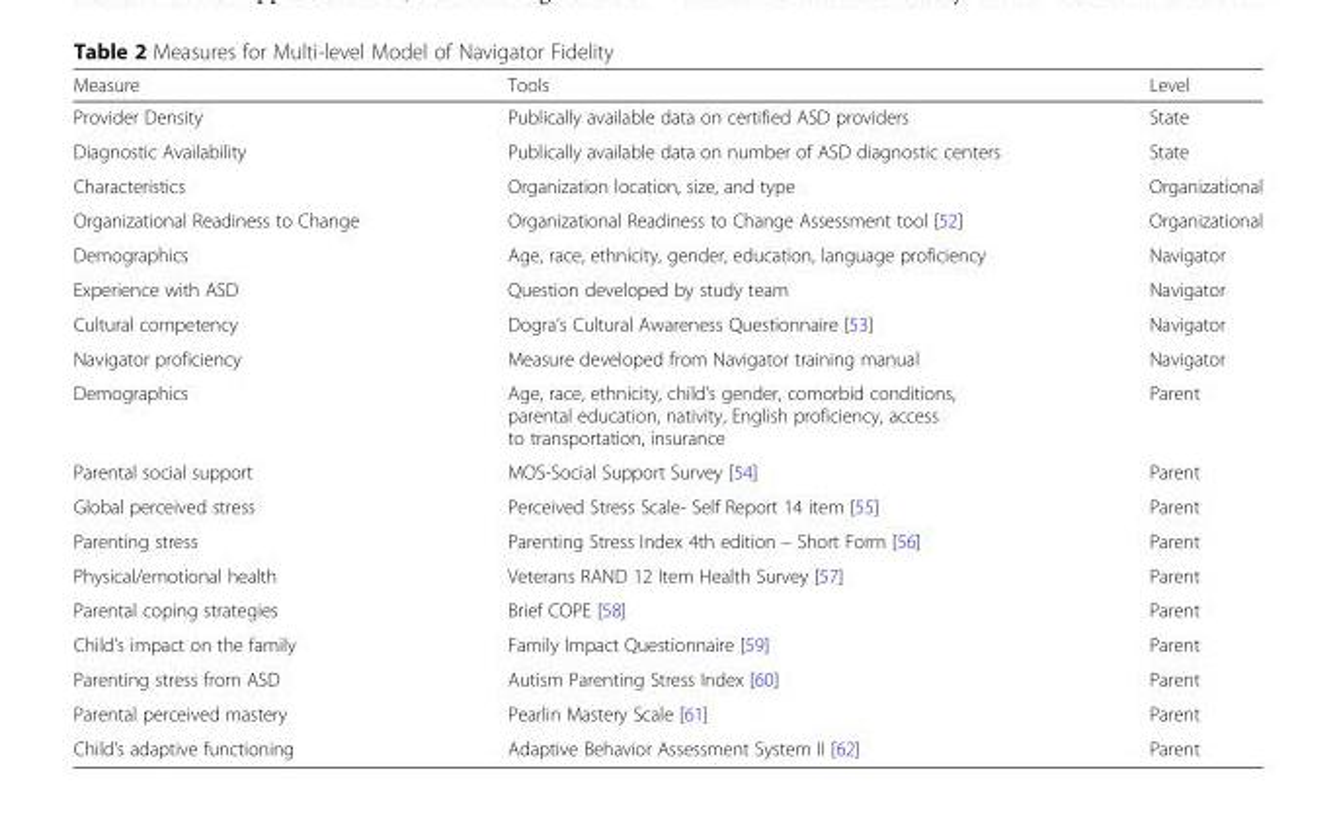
<table><thead><tr><td>Measure</td><td>Tools</td><td>Level</td></tr></thead><tbody><tr><td>Provider Density</td><td>Publically available data on certified ASD providers</td><td>State</td></tr><tr><td>Diagnostic Availability</td><td>Publically available data on number of ASD diagnostic centers</td><td>State</td></tr><tr><td>Characteristics</td><td>Organization location, size, and type</td><td>Organizational</td></tr><tr><td>Organizational Readiness to Change</td><td>Organizational Readiness to Change Assessment tool [52]</td><td>Organizational</td></tr><tr><td>Demographics</td><td>Age, race, ethnicity, gender, education, language proficiency</td><td>Navigator</td></tr><tr><td>Experience with ASD</td><td>Question developed by study team</td><td>Navigator</td></tr><tr><td>Cultural competency</td><td>Dogra’s Cultural Awareness Questionnaire [53]</td><td>Navigator</td></tr><tr><td>Navigator proficiency</td><td>Measure developed from Navigator training manual</td><td>Navigator</td></tr><tr><td>Demographics</td><td>Age, race, ethnicity, child’s gender, comorbid conditions, parental education, nativity, English proficiency, access to transportation, insurance</td><td>Parent</td></tr><tr><td>Parental social support</td><td>MOS-Social Support Survey [54]</td><td>Parent</td></tr><tr><td>Global perceived stress</td><td>Perceived Stress Scale- Self Report 14 item [55]</td><td>Parent</td></tr><tr><td>Parenting stress</td><td>Parenting Stress Index 4th edition – Short Form [56]</td><td>Parent</td></tr><tr><td>Physical/emotional health</td><td>Veterans RAND 12 Item Health Survey [57]</td><td>Parent</td></tr><tr><td>Parental coping strategies</td><td>Brief COPE [58]</td><td>Parent</td></tr><tr><td>Child’s impact on the family</td><td>Family Impact Questionnaire [59]</td><td>Parent</td></tr><tr><td>Parenting stress from ASD</td><td>Autism Parenting Stress Index [60]</td><td>Parent</td></tr><tr><td>Parental perceived mastery</td><td>Pearlin Mastery Scale [61]</td><td>Parent</td></tr><tr><td>Child’s adaptive functioning</td><td>Adaptive Behavior Assessment System II [62]</td><td>Parent</td></tr></tbody></table>